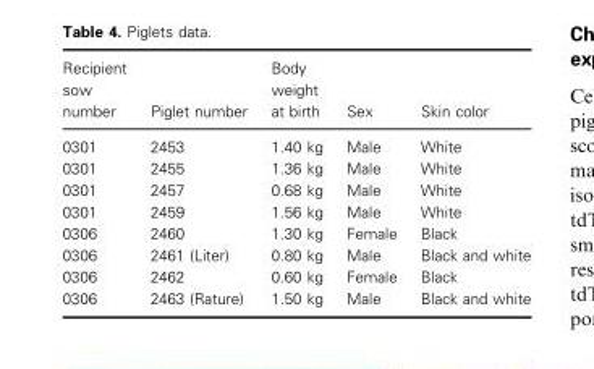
<table><thead><tr><td>Recipient sow number</td><td>Piglet number</td><td>Body weight at birth</td><td>Sex</td><td>Skin color</td></tr></thead><tbody><tr><td>0301</td><td>2453</td><td>1.40 kg</td><td>Male</td><td>White</td></tr><tr><td>0301</td><td>2455</td><td>1.36 kg</td><td>Male</td><td>White</td></tr><tr><td>0301</td><td>2457</td><td>0.68 kg</td><td>Male</td><td>White</td></tr><tr><td>0301</td><td>2459</td><td>1.56 kg</td><td>Male</td><td>White</td></tr><tr><td>0306</td><td>2460</td><td>1.30 kg</td><td>Female</td><td>Black</td></tr><tr><td>0306</td><td>2461 (Liter)</td><td>0.80 kg</td><td>Male</td><td>Black and white</td></tr><tr><td>0306</td><td>2462</td><td>0.60 kg</td><td>Female</td><td>Black</td></tr><tr><td>0306</td><td>2463 (Rature)</td><td>1.50 kg</td><td>Male</td><td>Black and white</td></tr></tbody></table>